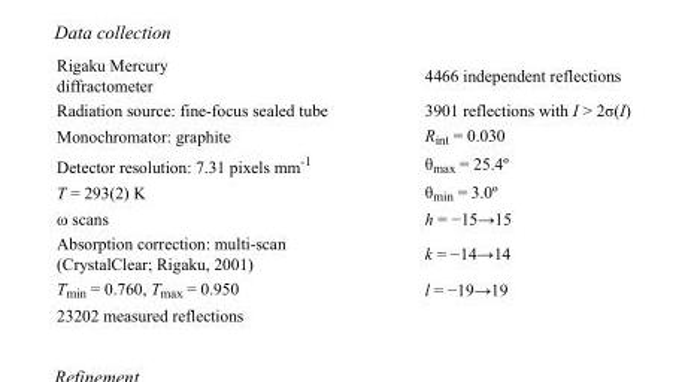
<table><tbody><tr><td>Rigaku Mercury diffractometer</td><td>4466 independent reflections</td></tr><tr><td>Radiation source: fine-focus sealed tube</td><td>3901 reflections with I &gt; 2σ(I)</td></tr><tr><td>Monochromator: graphite</td><td>R<sub>int</sub> = 0.030</td></tr><tr><td>Detector resolution: 7.31 pixels mm<sup>-1</sup></td><td>θ<sub>max</sub> = 25.4º</td></tr><tr><td>T = 293(2) K</td><td>θ<sub>min</sub> = 3.0º</td></tr><tr><td>ω scans</td><td>h = −15→15</td></tr><tr><td>Absorption correction: multi-scan (CrystalClear; Rigaku, 2001)</td><td>k = −14→14</td></tr><tr><td>T<sub>min</sub> = 0.760, T<sub>max</sub> = 0.950</td><td>l = −19→19</td></tr><tr><td>23202 measured reflections</td><td></td></tr></tbody></table>